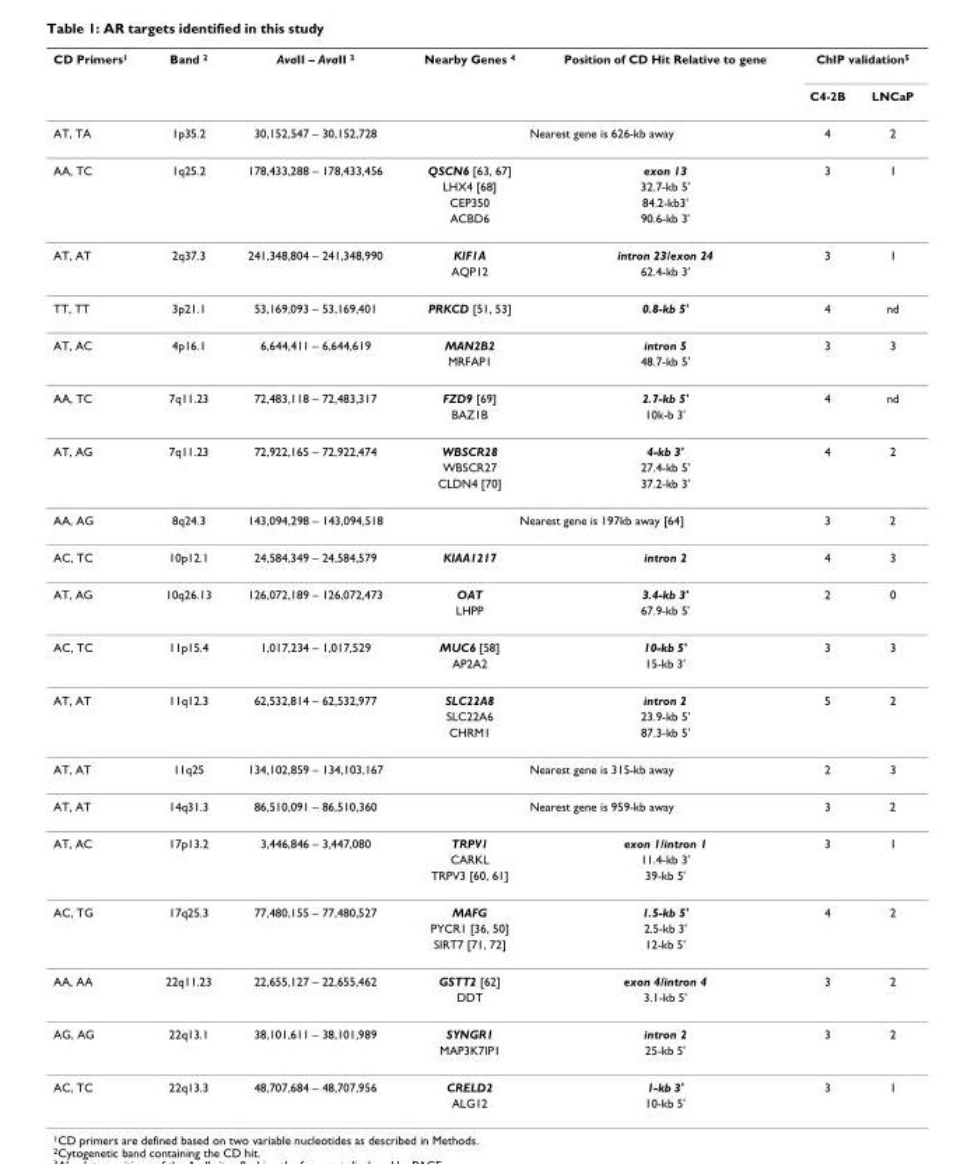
<table><thead><tr><td rowspan="2">CD Primers<sup>1</sup></td><td rowspan="2">Band <sup>2</sup></td><td rowspan="2">AvaII – AvaII <sup>3</sup></td><td rowspan="2">Nearby Genes <sup>4</sup></td><td rowspan="2">Position of CD Hit Relative to gene</td><td colspan="2">ChIP validation<sup>5</sup></td></tr><tr><td>C4-2B</td><td>LNCaP</td></tr></thead><tbody><tr><td>AT, TA</td><td>1p35.2</td><td>30,152,547 – 30,152,728</td><td colspan="2">Nearest gene is 626-kb away</td><td>4</td><td>2</td></tr><tr><td rowspan="4">AA, TC</td><td>1q25.2</td><td>178,433,288 – 178,433,456</td><td>QSCN6 [63, 67]</td><td>exon 13</td><td>3</td><td>1</td></tr><tr><td></td><td></td><td>LHX4 [68]</td><td>32.7-kb 5&#x27;</td><td></td><td></td></tr><tr><td></td><td></td><td>CEP350</td><td>84.2-kb3&#x27;</td><td></td><td></td></tr><tr><td></td><td></td><td>ACBD6</td><td>90.6-kb 3&#x27;</td><td></td><td></td></tr><tr><td rowspan="2">AT, AT</td><td>2q37.3</td><td>241,348,804 – 241,348,990</td><td>KIF1A</td><td>intron 23/exon 24</td><td>3</td><td>1</td></tr><tr><td></td><td></td><td>AQP12</td><td>62.4-kb 3&#x27;</td><td></td><td></td></tr><tr><td>TT, TT</td><td>3p21.1</td><td>53,169,093 – 53,169,401</td><td>PRKCD [51, 53]</td><td>0.8-kb 5&#x27;</td><td>4</td><td>nd</td></tr><tr><td rowspan="2">AT, AC</td><td>4p16.1</td><td>6,644,411 – 6,644,619</td><td>MAN2B2</td><td>intron 5</td><td>3</td><td>3</td></tr><tr><td></td><td></td><td>MRFAP1</td><td>48.7-kb 5&#x27;</td><td></td><td></td></tr><tr><td rowspan="2">AA, TC</td><td>7q11.23</td><td>72,483,118 – 72,483,317</td><td>FZD9 [69]</td><td>2.7-kb 5&#x27;</td><td>4</td><td>nd</td></tr><tr><td></td><td></td><td>BAZ1B</td><td>10k-b 3&#x27;</td><td></td><td></td></tr><tr><td rowspan="3">AT, AG</td><td>7q11.23</td><td>72,922,165 – 72,922,474</td><td>WBSCR28</td><td>4-kb 3&#x27;</td><td>4</td><td>2</td></tr><tr><td></td><td></td><td>WBSCR27</td><td>27.4-kb 5&#x27;</td><td></td><td></td></tr><tr><td></td><td></td><td>CLDN4 [70]</td><td>37.2-kb 3&#x27;</td><td></td><td></td></tr><tr><td>AA, AG</td><td>8q24.3</td><td>143,094,298 – 143,094,518</td><td colspan="2">Nearest gene is 197kb away [64]</td><td>3</td><td>2</td></tr><tr><td>AC, TC</td><td>10p12.1</td><td>24,584,349 – 24,584,579</td><td>KIAA1217</td><td>intron 2</td><td>4</td><td>3</td></tr><tr><td rowspan="2">AT, AG</td><td>10q26.13</td><td>126,072,189 – 126,072,473</td><td>OAT</td><td>3.4-kb 3&#x27;</td><td>2</td><td>0</td></tr><tr><td></td><td></td><td>LHPP</td><td>67.9-kb 5&#x27;</td><td></td><td></td></tr><tr><td rowspan="2">AC, TC</td><td>11p15.4</td><td>1,017,234 – 1,017,529</td><td>MUC6 [58]</td><td>10-kb 5&#x27;</td><td>3</td><td>3</td></tr><tr><td></td><td></td><td>AP2A2</td><td>15-kb 3&#x27;</td><td></td><td></td></tr><tr><td rowspan="3">AT, AT</td><td>11q12.3</td><td>62,532,814 – 62,532,977</td><td>SLC22A8</td><td>intron 2</td><td>5</td><td>2</td></tr><tr><td></td><td></td><td>SLC22A6</td><td>23.9-kb 5&#x27;</td><td></td><td></td></tr><tr><td></td><td></td><td>CHRM1</td><td>87.3-kb 5&#x27;</td><td></td><td></td></tr><tr><td>AT, AT</td><td>11q25</td><td>134,102,859 – 134,103,167</td><td colspan="2">Nearest gene is 315-kb away</td><td>2</td><td>3</td></tr><tr><td>AT, AT</td><td>14q31.3</td><td>86,510,091 – 86,510,360</td><td colspan="2">Nearest gene is 959-kb away</td><td>3</td><td>2</td></tr><tr><td rowspan="3">AT, AC</td><td>17p13.2</td><td>3,446,846 – 3,447,080</td><td>TRPV1</td><td>exon 1/intron 1</td><td>3</td><td>1</td></tr><tr><td></td><td></td><td>CARKL</td><td>11.4-kb 3&#x27;</td><td></td><td></td></tr><tr><td></td><td></td><td>TRPV3 [60, 61]</td><td>39-kb 5&#x27;</td><td></td><td></td></tr><tr><td rowspan="3">AC, TG</td><td>17q25.3</td><td>77,480,155 – 77,480,527</td><td>MAFG</td><td>1.5-kb 5&#x27;</td><td>4</td><td>2</td></tr><tr><td></td><td></td><td>PYCR1 [36, 50]</td><td>2.5-kb 3&#x27;</td><td></td><td></td></tr><tr><td></td><td></td><td>SIRT7 [71, 72]</td><td>12-kb 5&#x27;</td><td></td><td></td></tr><tr><td rowspan="2">AA, AA</td><td>22q11.23</td><td>22,655,127 – 22,655,462</td><td>GSTT2 [62]</td><td>exon 4/intron 4</td><td>3</td><td>2</td></tr><tr><td></td><td></td><td>DDT</td><td>3.1-kb 5&#x27;</td><td></td><td></td></tr><tr><td rowspan="2">AG, AG</td><td>22q13.1</td><td>38,101,611 – 38,101,989</td><td>SYNGR1</td><td>intron 2</td><td>3</td><td>2</td></tr><tr><td></td><td></td><td>MAP3K7IP1</td><td>25-kb 5&#x27;</td><td></td><td></td></tr><tr><td rowspan="2">AC, TC</td><td>22q13.3</td><td>48,707,684 – 48,707,956</td><td>CRELD2</td><td>1-kb 3&#x27;</td><td>3</td><td>1</td></tr><tr><td></td><td></td><td>ALG12</td><td>10-kb 5&#x27;</td><td></td><td></td></tr></tbody></table>